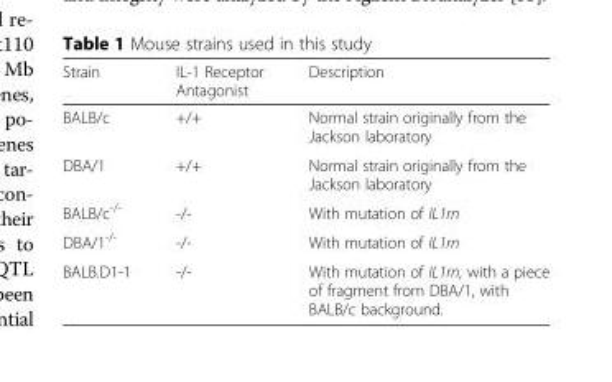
<table><thead><tr><td>Strain</td><td>IL-1 Receptor Antagonist</td><td>Description</td></tr></thead><tbody><tr><td>BALB/c</td><td>+/+</td><td>Normal strain originally from the Jackson laboratory</td></tr><tr><td>DBA/1</td><td>+/+</td><td>Normal strain originally from the Jackson laboratory</td></tr><tr><td>BALB/c<sup>-/-</sup></td><td>-/-</td><td>With mutation of IL1rn</td></tr><tr><td>DBA/1<sup>-/-</sup></td><td>-/-</td><td>With mutation of IL1rn</td></tr><tr><td>BALB.D1-1</td><td>-/-</td><td>With mutation of IL1rn, with a piece of fragment from DBA/1, with BALB/c background.</td></tr></tbody></table>